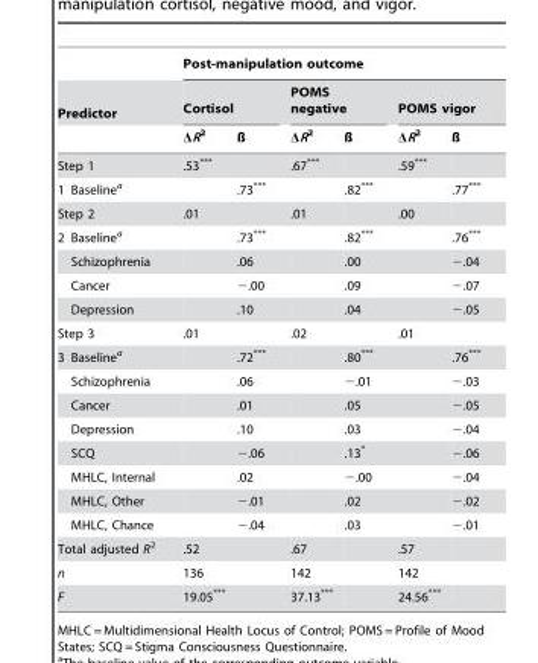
<table><thead><tr><td></td><td></td><td colspan="6">Post-manipulation outcome</td></tr><tr><td colspan="2">Predictor</td><td colspan="2">Cortisol</td><td colspan="2">POMS negative</td><td colspan="2">POMS vigor</td></tr><tr><td></td><td></td><td>ΔR<sup>2</sup></td><td>ß</td><td>ΔR<sup>2</sup></td><td>ß</td><td>ΔR<sup>2</sup></td><td>ß</td></tr></thead><tbody><tr><td colspan="2">Step 1</td><td>.53***</td><td></td><td>.67***</td><td></td><td>.59***</td><td></td></tr><tr><td>1</td><td>Baseline<sup>a</sup></td><td></td><td>.73***</td><td></td><td>.82***</td><td></td><td>.77***</td></tr><tr><td colspan="2">Step 2</td><td>.01</td><td></td><td>.01</td><td></td><td>.00</td><td></td></tr><tr><td rowspan="4">2</td><td>Baseline<sup>a</sup></td><td></td><td>.73***</td><td></td><td>.82***</td><td></td><td>.76***</td></tr><tr><td>Schizophrenia</td><td></td><td>.06</td><td></td><td>.00</td><td></td><td>−.04</td></tr><tr><td>Cancer</td><td></td><td>−.00</td><td></td><td>.09</td><td></td><td>−.07</td></tr><tr><td>Depression</td><td></td><td>.10</td><td></td><td>.04</td><td></td><td>−.05</td></tr><tr><td colspan="2">Step 3</td><td>.01</td><td></td><td>.02</td><td></td><td>.01</td><td></td></tr><tr><td rowspan="8">3</td><td>Baseline<sup>a</sup></td><td></td><td>.72***</td><td></td><td>.80***</td><td></td><td>.76***</td></tr><tr><td>Schizophrenia</td><td></td><td>.06</td><td></td><td>−.01</td><td></td><td>−.03</td></tr><tr><td>Cancer</td><td></td><td>.01</td><td></td><td>.05</td><td></td><td>−.05</td></tr><tr><td>Depression</td><td></td><td>.10</td><td></td><td>.03</td><td></td><td>−.04</td></tr><tr><td>SCQ</td><td></td><td>−.06</td><td></td><td>.13*</td><td></td><td>−.06</td></tr><tr><td>MHLC, Internal</td><td></td><td>.02</td><td></td><td>−.00</td><td></td><td>−.04</td></tr><tr><td>MHLC, Other</td><td></td><td>−.01</td><td></td><td>.02</td><td></td><td>−.02</td></tr><tr><td>MHLC, Chance</td><td></td><td>−.04</td><td></td><td>.03</td><td></td><td>−.01</td></tr><tr><td colspan="2">Total adjusted R<sup>2</sup></td><td>.52</td><td></td><td>.67</td><td></td><td>.57</td><td></td></tr><tr><td colspan="2">n</td><td>136</td><td></td><td>142</td><td></td><td>142</td><td></td></tr><tr><td colspan="2">F</td><td>19.05***</td><td></td><td>37.13***</td><td></td><td>24.56***</td><td></td></tr></tbody></table>